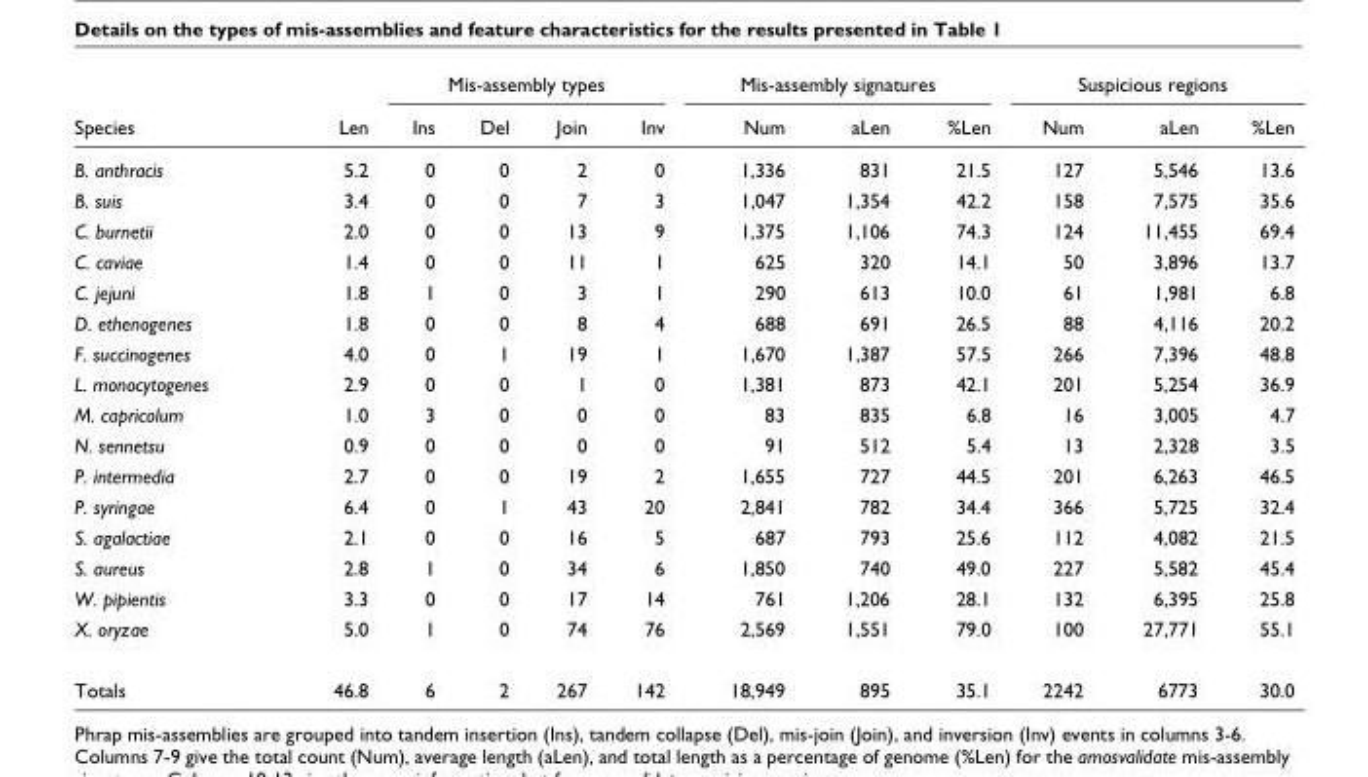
<table><thead><tr><td rowspan="2">Species</td><td rowspan="2">Len</td><td colspan="4">Mis-assembly types</td><td colspan="3">Mis-assembly signatures</td><td colspan="3">Suspicious regions</td></tr><tr><td>Ins</td><td>Del</td><td>Join</td><td>Inv</td><td>Num</td><td>aLen</td><td>%Len</td><td>Num</td><td>aLen</td><td>%Len</td></tr></thead><tbody><tr><td>B. anthracis</td><td>5.2</td><td>0</td><td>0</td><td>2</td><td>0</td><td>1,336</td><td>831</td><td>21.5</td><td>127</td><td>5,546</td><td>13.6</td></tr><tr><td>B. suis</td><td>3.4</td><td>0</td><td>0</td><td>7</td><td>3</td><td>1,047</td><td>1,354</td><td>42.2</td><td>158</td><td>7,575</td><td>35.6</td></tr><tr><td>C. burnetii</td><td>2.0</td><td>0</td><td>0</td><td>13</td><td>9</td><td>1,375</td><td>1,106</td><td>74.3</td><td>124</td><td>11,455</td><td>69.4</td></tr><tr><td>C. caviae</td><td>1.4</td><td>0</td><td>0</td><td>11</td><td>1</td><td>625</td><td>320</td><td>14.1</td><td>50</td><td>3,896</td><td>13.7</td></tr><tr><td>C. jejuni</td><td>1.8</td><td>1</td><td>0</td><td>3</td><td>1</td><td>290</td><td>613</td><td>10.0</td><td>61</td><td>1,981</td><td>6.8</td></tr><tr><td>D. ethenogenes</td><td>1.8</td><td>0</td><td>0</td><td>8</td><td>4</td><td>688</td><td>691</td><td>26.5</td><td>88</td><td>4,116</td><td>20.2</td></tr><tr><td>F. succinogenes</td><td>4.0</td><td>0</td><td>1</td><td>19</td><td>1</td><td>1,670</td><td>1,387</td><td>57.5</td><td>266</td><td>7,396</td><td>48.8</td></tr><tr><td>L. monocytogenes</td><td>2.9</td><td>0</td><td>0</td><td>1</td><td>0</td><td>1,381</td><td>873</td><td>42.1</td><td>201</td><td>5,254</td><td>36.9</td></tr><tr><td>M. capricolum</td><td>1.0</td><td>3</td><td>0</td><td>0</td><td>0</td><td>83</td><td>835</td><td>6.8</td><td>16</td><td>3,005</td><td>4.7</td></tr><tr><td>N. sennetsu</td><td>0.9</td><td>0</td><td>0</td><td>0</td><td>0</td><td>91</td><td>512</td><td>5.4</td><td>13</td><td>2,328</td><td>3.5</td></tr><tr><td>P. intermedia</td><td>2.7</td><td>0</td><td>0</td><td>19</td><td>2</td><td>1,655</td><td>727</td><td>44.5</td><td>201</td><td>6,263</td><td>46.5</td></tr><tr><td>P. syringae</td><td>6.4</td><td>0</td><td>1</td><td>43</td><td>20</td><td>2,841</td><td>782</td><td>34.4</td><td>366</td><td>5,725</td><td>32.4</td></tr><tr><td>S. agalactiae</td><td>2.1</td><td>0</td><td>0</td><td>16</td><td>5</td><td>687</td><td>793</td><td>25.6</td><td>112</td><td>4,082</td><td>21.5</td></tr><tr><td>S. aureus</td><td>2.8</td><td>1</td><td>0</td><td>34</td><td>6</td><td>1,850</td><td>740</td><td>49.0</td><td>227</td><td>5,582</td><td>45.4</td></tr><tr><td>W. pipientis</td><td>3.3</td><td>0</td><td>0</td><td>17</td><td>14</td><td>761</td><td>1,206</td><td>28.1</td><td>132</td><td>6,395</td><td>25.8</td></tr><tr><td>X. oryzae</td><td>5.0</td><td>1</td><td>0</td><td>74</td><td>76</td><td>2,569</td><td>1,551</td><td>79.0</td><td>100</td><td>27,771</td><td>55.1</td></tr><tr><td>Totals</td><td>46.8</td><td>6</td><td>2</td><td>267</td><td>142</td><td>18,949</td><td>895</td><td>35.1</td><td>2242</td><td>6773</td><td>30.0</td></tr></tbody></table>